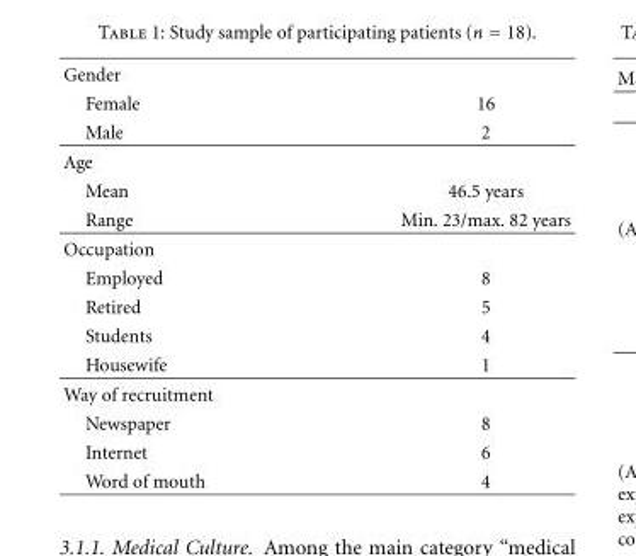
<table><tbody><tr><td colspan="2">Gender</td></tr><tr><td>Female</td><td>16</td></tr><tr><td>Male</td><td>2</td></tr><tr><td colspan="2">Age</td></tr><tr><td>Mean</td><td>46.5 years</td></tr><tr><td>Range</td><td>Min. 23/max. 82 years</td></tr><tr><td colspan="2">Occupation</td></tr><tr><td>Employed</td><td>8</td></tr><tr><td>Retired</td><td>5</td></tr><tr><td>Students</td><td>4</td></tr><tr><td>Housewife</td><td>1</td></tr><tr><td colspan="2">Way of recruitment</td></tr><tr><td>Newspaper</td><td>8</td></tr><tr><td>Internet</td><td>6</td></tr><tr><td>Word of mouth</td><td>4</td></tr></tbody></table>